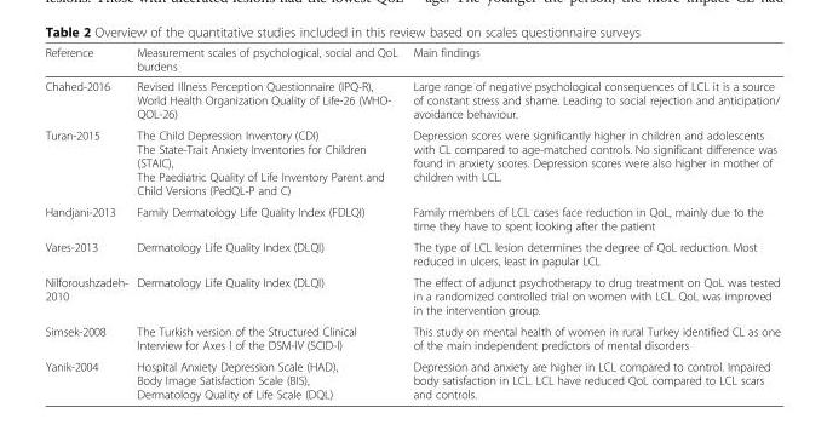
<table><thead><tr><td>Reference</td><td>Measurement scales of psychological, social and QoL burdens</td><td>Main findings</td></tr></thead><tbody><tr><td>Chahed-2016</td><td>Revised Illness Perception Questionnaire (IPQ-R), World Health Organization Quality of Life-26 (WHO- QOL-26)</td><td>Large range of negative psychological consequences of LCL it is a source of constant stress and shame. Leading to social rejection and anticipation/ avoidance behaviour.</td></tr><tr><td>Turan-2015</td><td>The Child Depression Inventory (CDI) The State-Trait Anxiety Inventories for Children (STAIC), The Paediatric Quality of Life Inventory Parent and Child Versions (PedQL-P and C)</td><td>Depression scores were significantly higher in children and adolescents with CL compared to age-matched controls. No significant difference was found in anxiety scores. Depression scores were also higher in mother of children with LCL.</td></tr><tr><td>Handjani-2013</td><td>Family Dermatology Life Quality Index (FDLQI)</td><td>Family members of LCL cases face reduction in QoL, mainly due to the time they have to spent looking after the patient</td></tr><tr><td>Vares-2013</td><td>Dermatology Life Quality Index (DLQI)</td><td>The type of LCL lesion determines the degree of QoL reduction. Most reduced in ulcers, least in papular LCL</td></tr><tr><td>Nilforoushzadeh- 2010</td><td>Dermatology Life Quality Index (DLQI)</td><td>The effect of adjunct psychotherapy to drug treatment on QoL was tested in a randomized controlled trial on women with LCL. QoL was improved in the intervention group.</td></tr><tr><td>Simsek-2008</td><td>The Turkish version of the Structured Clinical Interview for Axes I of the DSM-IV (SCID-I)</td><td>This study on mental health of women in rural Turkey identified CL as one of the main independent predictors of mental disorders</td></tr><tr><td>Yanik-2004</td><td>Hospital Anxiety Depression Scale (HAD), Body Image Satisfaction Scale (BIS), Dermatology Quality of Life Scale (DQL)</td><td>Depression and anxiety are higher in LCL compared to control. Impaired body satisfaction in LCL. LCL have reduced QoL compared to LCL scars and controls.</td></tr></tbody></table>